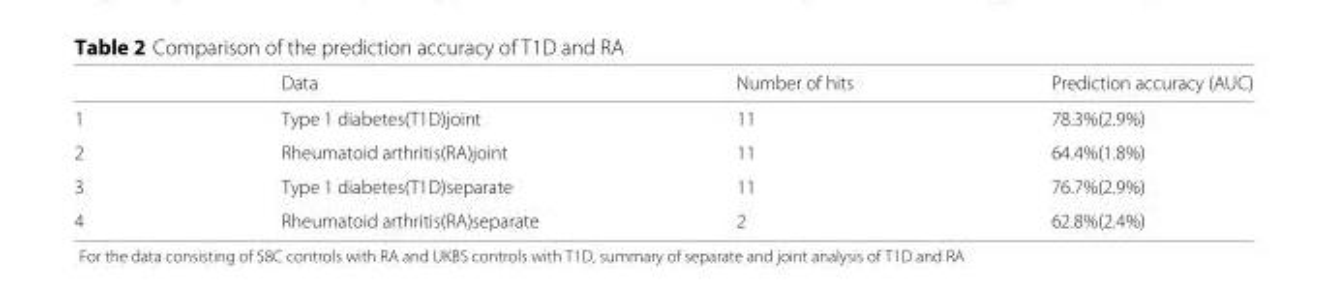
<table><thead><tr><td></td><td>Data</td><td>Number of hits</td><td>Prediction accuracy (AUC)</td></tr></thead><tbody><tr><td>1</td><td>Type 1 diabetes(T1D)joint</td><td>11</td><td>78.3%(2.9%)</td></tr><tr><td>2</td><td>Rheumatoid arthritis(RA)joint</td><td>11</td><td>64.4%(1.8%)</td></tr><tr><td>3</td><td>Type 1 diabetes(T1D)separate</td><td>11</td><td>76.7%(2.9%)</td></tr><tr><td>4</td><td>Rheumatoid arthritis(RA)separate</td><td>2</td><td>62.8%(2.4%)</td></tr></tbody></table>